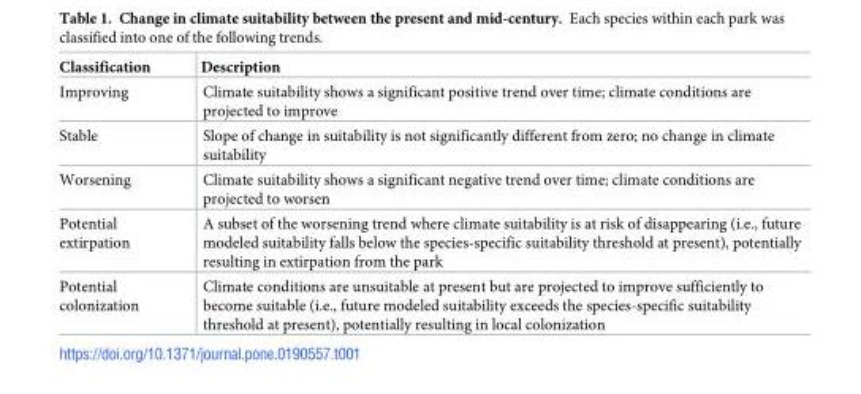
<table><thead><tr><td>Classification</td><td>Description</td></tr></thead><tbody><tr><td>Improving</td><td>Climate suitability shows a significant positive trend over time; climate conditions are projected to improve</td></tr><tr><td>Stable</td><td>Slope of change in suitability is not significantly different from zero; no change in climate suitability</td></tr><tr><td>Worsening</td><td>Climate suitability shows a significant negative trend over time; climate conditions are projected to worsen</td></tr><tr><td>Potential extirpation</td><td>A subset of the worsening trend where climate suitability is at risk of disappearing (i.e., future modeled suitability falls below the species-specific suitability threshold at present), potentially resulting in extirpation from the park</td></tr><tr><td>Potential colonization</td><td>Climate conditions are unsuitable at present but are projected to improve sufficiently to become suitable (i.e., future modeled suitability exceeds the species-specific suitability threshold at present), potentially resulting in local colonization</td></tr></tbody></table>